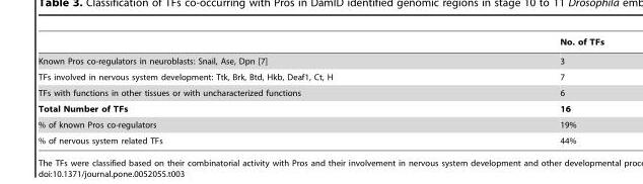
<table><thead><tr><td></td><td>No. of TFs</td></tr></thead><tbody><tr><td>Known Pros co-regulators in neuroblasts: Snail, Ase, Dpn [7]</td><td>3</td></tr><tr><td>TFs involved in nervous system development: Ttk, Brk, Btd, Hkb, Deaf1, Ct, H</td><td>7</td></tr><tr><td>TFs with functions in other tissues or with uncharacterized functions</td><td>6</td></tr><tr><td>Total Number of TFs</td><td>16</td></tr><tr><td>% of known Pros co-regulators</td><td>19%</td></tr><tr><td>% of nervous system related TFs</td><td>44%</td></tr></tbody></table>